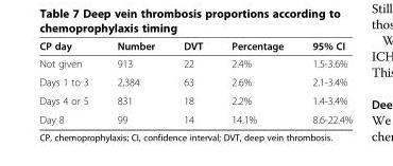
<table><thead><tr><td>CP day</td><td>Number</td><td>DVT</td><td>Percentage</td><td>95% CI</td></tr></thead><tbody><tr><td>Not given</td><td>913</td><td>22</td><td>2.4%</td><td>1.5-3.6%</td></tr><tr><td>Days 1 to 3</td><td>2,384</td><td>63</td><td>2.6%</td><td>2.1-3.4%</td></tr><tr><td>Days 4 or 5</td><td>831</td><td>18</td><td>2.2%</td><td>1.4-3.4%</td></tr><tr><td>Day 8</td><td>99</td><td>14</td><td>14.1%</td><td>8.6-22.4%</td></tr></tbody></table>